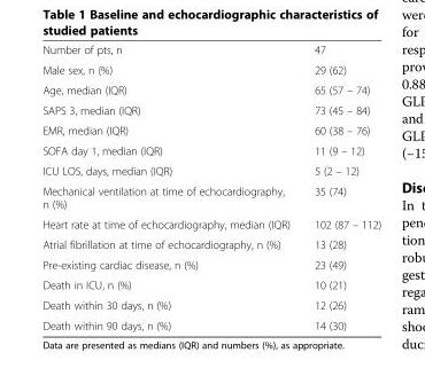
<table><tbody><tr><td>Number of pts, n</td><td>47</td></tr><tr><td>Male sex, n (%)</td><td>29 (62)</td></tr><tr><td>Age, median (IQR)</td><td>65 (57 – 74)</td></tr><tr><td>SAPS 3, median (IQR)</td><td>73 (45 – 84)</td></tr><tr><td>EMR, median (IQR)</td><td>60 (38 – 76)</td></tr><tr><td>SOFA day 1, median (IQR)</td><td>11 (9 – 12)</td></tr><tr><td>ICU LOS, days, median (IQR)</td><td>5 (2 – 12)</td></tr><tr><td>Mechanical ventilation at time of echocardiography, n (%)</td><td>35 (74)</td></tr><tr><td>Heart rate at time of echocardiography, median (IQR)</td><td>102 (87 – 112)</td></tr><tr><td>Atrial fibrillation at time of echocardiography, n (%)</td><td>13 (28)</td></tr><tr><td>Pre-existing cardiac disease, n (%)</td><td>23 (49)</td></tr><tr><td>Death in ICU, n (%)</td><td>10 (21)</td></tr><tr><td>Death within 30 days, n (%)</td><td>12 (26)</td></tr><tr><td>Death within 90 days, n (%)</td><td>14 (30)</td></tr></tbody></table>